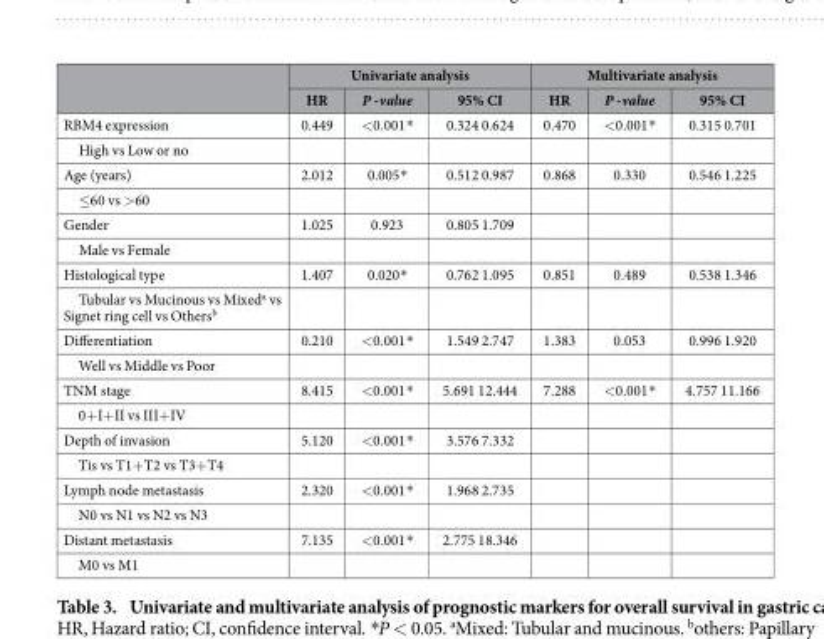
<table><thead><tr><td rowspan="2"></td><td colspan="3">Univariate analysis</td><td colspan="3">Multivariate analysis</td></tr><tr><td>HR</td><td>P -value</td><td>95% CI</td><td>HR</td><td>P -value</td><td>95% CI</td></tr></thead><tbody><tr><td>RBM4 expression</td><td>0.449</td><td>&lt; 0.001*</td><td>0.324 0.624</td><td>0.470</td><td>&lt; 0.001*</td><td>0.315 0.701</td></tr><tr><td colspan="7">High vs Low or no</td></tr><tr><td>Age (years)</td><td>2.012</td><td>0.005*</td><td>0.512 0.987</td><td>0.868</td><td>0.330</td><td>0.546 1.225</td></tr><tr><td colspan="7">≤ 60 vs &gt; 60</td></tr><tr><td>Gender</td><td>1.025</td><td>0.923</td><td>0.805 1.709</td><td></td><td></td><td></td></tr><tr><td colspan="7">Male vs Female</td></tr><tr><td>Histological type</td><td>1.407</td><td>0.020*</td><td>0.762 1.095</td><td>0.851</td><td>0.489</td><td>0.538 1.346</td></tr><tr><td colspan="7">Tubular vs Mucinous vs Mixed<sup>a</sup> vs Signet ring cell vs Others<sup>b</sup></td></tr><tr><td>Differentiation</td><td>0.210</td><td>&lt; 0.001*</td><td>1.549 2.747</td><td>1.383</td><td>0.053</td><td>0.996 1.920</td></tr><tr><td colspan="7">Well vs Middle vs Poor</td></tr><tr><td>TNM stage</td><td>8.415</td><td>&lt; 0.001*</td><td>5.691 12.444</td><td>7.288</td><td>&lt; 0.001*</td><td>4.757 11.166</td></tr><tr><td colspan="7">0+ I+ II vs III+ IV</td></tr><tr><td>Depth of invasion</td><td>5.120</td><td>&lt; 0.001*</td><td>3.576 7.332</td><td></td><td></td><td></td></tr><tr><td colspan="7">Tis vs T1+ T2 vs T3+ T4</td></tr><tr><td>Lymph node metastasis</td><td>2.320</td><td>&lt; 0.001*</td><td>1.968 2.735</td><td></td><td></td><td></td></tr><tr><td colspan="7">N0 vs N1 vs N2 vs N3</td></tr><tr><td>Distant metastasis</td><td>7.135</td><td>&lt; 0.001*</td><td>2.775 18.346</td><td></td><td></td><td></td></tr><tr><td>M0 vs M1</td><td></td><td></td><td></td><td></td><td></td><td></td></tr></tbody></table>